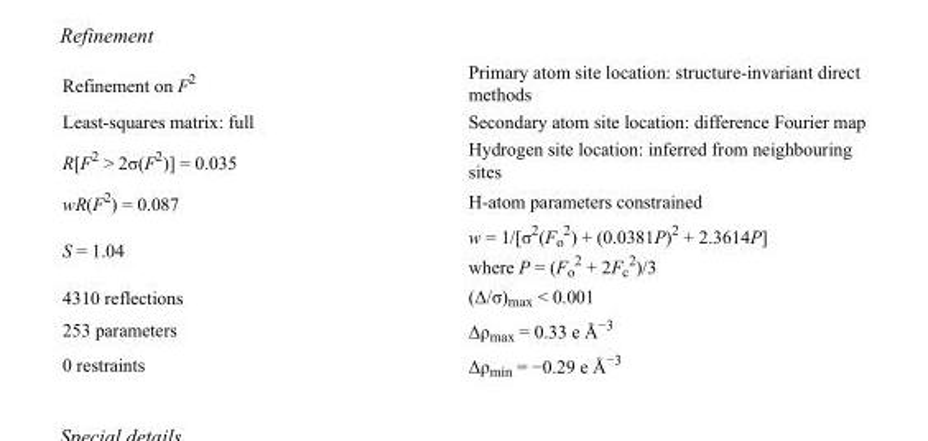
<table><tbody><tr><td>Refinement on F<sup>2</sup></td><td>Primary atom site location: structure-invariant direct methods</td></tr><tr><td>Least-squares matrix: full</td><td>Secondary atom site location: difference Fourier map</td></tr><tr><td>R[F<sup>2</sup> &gt; 2σ(F<sup>2</sup>)] = 0.035</td><td>Hydrogen site location: inferred from neighbouring sites</td></tr><tr><td>wR(F<sup>2</sup>) = 0.087</td><td>H-atom parameters constrained</td></tr><tr><td>S = 1.04</td><td>w = 1/[σ<sup>2</sup>(F<sub>o</sub> <sup>2</sup>) + (0.0381P)<sup>2</sup> + 2.3614P] where P = (F<sub>o</sub> <sup>2</sup> + 2F<sub>c</sub> <sup>2</sup>)/3</td></tr><tr><td>4310 reflections</td><td>(Δ/σ)<sub>max</sub> &lt; 0.001</td></tr><tr><td>253 parameters</td><td>Δρ<sub>max</sub> = 0.33 e Å<sup>−3</sup></td></tr><tr><td>0 restraints</td><td>Δρ<sub>min</sub> = −0.29 e Å<sup>−3</sup></td></tr></tbody></table>